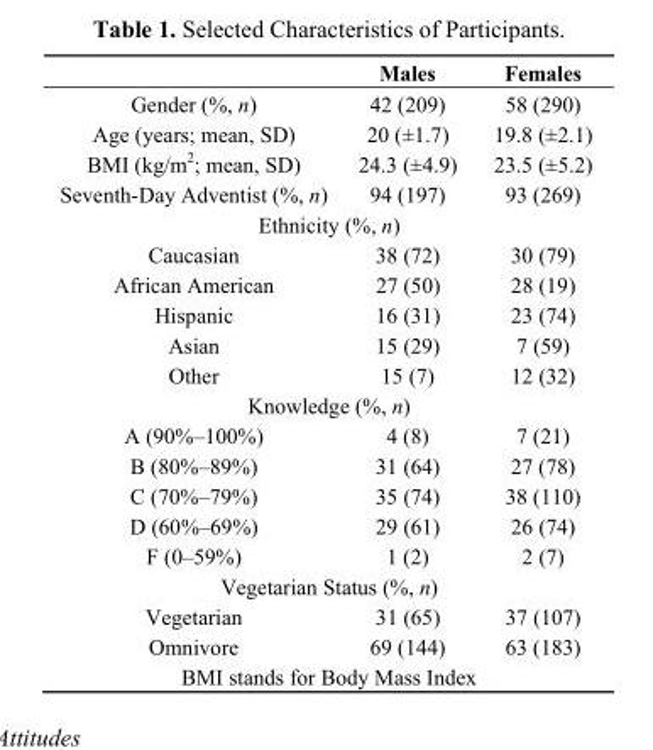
<table><thead><tr><td></td><td>Males</td><td>Females</td></tr></thead><tbody><tr><td>Gender (%, n)</td><td>42 (209)</td><td>58 (290)</td></tr><tr><td>Age (years; mean, SD)</td><td>20 (±1.7)</td><td>19.8 (±2.1)</td></tr><tr><td>BMI (kg/m<sup>2</sup>; mean, SD)</td><td>24.3 (±4.9)</td><td>23.5 (±5.2)</td></tr><tr><td>Seventh-Day Adventist (%, n)</td><td>94 (197)</td><td>93 (269)</td></tr><tr><td colspan="3">Ethnicity (%, n)</td></tr><tr><td>Caucasian</td><td>38 (72)</td><td>30 (79)</td></tr><tr><td>African American</td><td>27 (50)</td><td>28 (19)</td></tr><tr><td>Hispanic</td><td>16 (31)</td><td>23 (74)</td></tr><tr><td>Asian</td><td>15 (29)</td><td>7 (59)</td></tr><tr><td>Other</td><td>15 (7)</td><td>12 (32)</td></tr><tr><td colspan="3">Knowledge (%, n)</td></tr><tr><td>A (90%–100%)</td><td>4 (8)</td><td>7 (21)</td></tr><tr><td>B (80%–89%)</td><td>31 (64)</td><td>27 (78)</td></tr><tr><td>C (70%–79%)</td><td>35 (74)</td><td>38 (110)</td></tr><tr><td>D (60%–69%)</td><td>29 (61)</td><td>26 (74)</td></tr><tr><td>F (0–59%)</td><td>1 (2)</td><td>2 (7)</td></tr><tr><td colspan="3">Vegetarian Status (%, n)</td></tr><tr><td>Vegetarian</td><td>31 (65)</td><td>37 (107)</td></tr><tr><td>Omnivore</td><td>69 (144)</td><td>63 (183)</td></tr><tr><td colspan="3">BMI stands for Body Mass Index</td></tr></tbody></table>